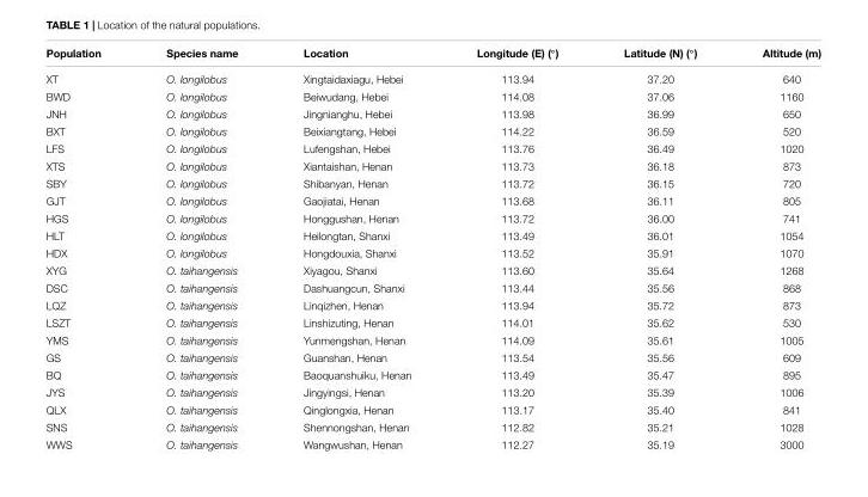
<table><thead><tr><td>Population</td><td>Species name</td><td>Location</td><td>Longitude (E) (◦)</td><td>Latitude (N) (◦)</td><td>Altitude (m)</td></tr></thead><tbody><tr><td>XT</td><td>O. longilobus</td><td>Xingtaidaxiagu, Hebei</td><td>113.94</td><td>37.20</td><td>640</td></tr><tr><td>BWD</td><td>O. longilobus</td><td>Beiwudang, Hebei</td><td>114.08</td><td>37.06</td><td>1160</td></tr><tr><td>JNH</td><td>O. longilobus</td><td>Jingnianghu, Hebei</td><td>113.98</td><td>36.99</td><td>650</td></tr><tr><td>BXT</td><td>O. longilobus</td><td>Beixiangtang, Hebei</td><td>114.22</td><td>36.59</td><td>520</td></tr><tr><td>LFS</td><td>O. longilobus</td><td>Lufengshan, Hebei</td><td>113.76</td><td>36.49</td><td>1020</td></tr><tr><td>XTS</td><td>O. longilobus</td><td>Xiantaishan, Henan</td><td>113.73</td><td>36.18</td><td>873</td></tr><tr><td>SBY</td><td>O. longilobus</td><td>Shibanyan, Henan</td><td>113.72</td><td>36.15</td><td>720</td></tr><tr><td>GJT</td><td>O. longilobus</td><td>Gaojiatai, Henan</td><td>113.68</td><td>36.11</td><td>805</td></tr><tr><td>HGS</td><td>O. longilobus</td><td>Honggushan, Henan</td><td>113.72</td><td>36.00</td><td>741</td></tr><tr><td>HLT</td><td>O. longilobus</td><td>Heilongtan, Shanxi</td><td>113.49</td><td>36.01</td><td>1054</td></tr><tr><td>HDX</td><td>O. longilobus</td><td>Hongdouxia, Shanxi</td><td>113.52</td><td>35.91</td><td>1070</td></tr><tr><td>XYG</td><td>O. taihangensis</td><td>Xiyagou, Shanxi</td><td>113.60</td><td>35.64</td><td>1268</td></tr><tr><td>DSC</td><td>O. taihangensis</td><td>Dashuangcun, Shanxi</td><td>113.44</td><td>35.56</td><td>868</td></tr><tr><td>LQZ</td><td>O. taihangensis</td><td>Linqizhen, Henan</td><td>113.94</td><td>35.72</td><td>873</td></tr><tr><td>LSZT</td><td>O. taihangensis</td><td>Linshizuting, Henan</td><td>114.01</td><td>35.62</td><td>530</td></tr><tr><td>YMS</td><td>O. taihangensis</td><td>Yunmengshan, Henan</td><td>114.09</td><td>35.61</td><td>1005</td></tr><tr><td>GS</td><td>O. taihangensis</td><td>Guanshan, Henan</td><td>113.54</td><td>35.56</td><td>609</td></tr><tr><td>BQ</td><td>O. taihangensis</td><td>Baoquanshuiku, Henan</td><td>113.49</td><td>35.47</td><td>895</td></tr><tr><td>JYS</td><td>O. taihangensis</td><td>Jingyingsi, Henan</td><td>113.20</td><td>35.39</td><td>1006</td></tr><tr><td>QLX</td><td>O. taihangensis</td><td>Qinglongxia, Henan</td><td>113.17</td><td>35.40</td><td>841</td></tr><tr><td>SNS</td><td>O. taihangensis</td><td>Shennongshan, Henan</td><td>112.82</td><td>35.21</td><td>1028</td></tr><tr><td>WWS</td><td>O. taihangensis</td><td>Wangwushan, Henan</td><td>112.27</td><td>35.19</td><td>3000</td></tr></tbody></table>